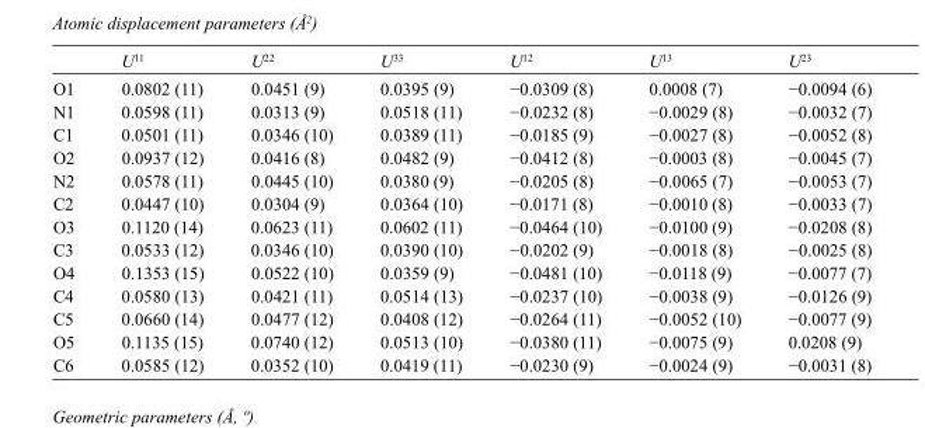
<table><thead><tr><td></td><td>U<sup>11</sup></td><td>U<sup>22</sup></td><td>U<sup>33</sup></td><td>U<sup>12</sup></td><td>U<sup>13</sup></td><td>U<sup>23</sup></td></tr></thead><tbody><tr><td>O1</td><td>0.0802 (11)</td><td>0.0451 (9)</td><td>0.0395 (9)</td><td>−0.0309 (8)</td><td>0.0008 (7)</td><td>−0.0094 (6)</td></tr><tr><td>N1</td><td>0.0598 (11)</td><td>0.0313 (9)</td><td>0.0518 (11)</td><td>−0.0232 (8)</td><td>−0.0029 (8)</td><td>−0.0032 (7)</td></tr><tr><td>C1</td><td>0.0501 (11)</td><td>0.0346 (10)</td><td>0.0389 (11)</td><td>−0.0185 (9)</td><td>−0.0027 (8)</td><td>−0.0052 (8)</td></tr><tr><td>O2</td><td>0.0937 (12)</td><td>0.0416 (8)</td><td>0.0482 (9)</td><td>−0.0412 (8)</td><td>−0.0003 (8)</td><td>−0.0045 (7)</td></tr><tr><td>N2</td><td>0.0578 (11)</td><td>0.0445 (10)</td><td>0.0380 (9)</td><td>−0.0205 (8)</td><td>−0.0065 (7)</td><td>−0.0053 (7)</td></tr><tr><td>C2</td><td>0.0447 (10)</td><td>0.0304 (9)</td><td>0.0364 (10)</td><td>−0.0171 (8)</td><td>−0.0010 (8)</td><td>−0.0033 (7)</td></tr><tr><td>O3</td><td>0.1120 (14)</td><td>0.0623 (11)</td><td>0.0602 (11)</td><td>−0.0464 (10)</td><td>−0.0100 (9)</td><td>−0.0208 (8)</td></tr><tr><td>C3</td><td>0.0533 (12)</td><td>0.0346 (10)</td><td>0.0390 (10)</td><td>−0.0202 (9)</td><td>−0.0018 (8)</td><td>−0.0025 (8)</td></tr><tr><td>O4</td><td>0.1353 (15)</td><td>0.0522 (10)</td><td>0.0359 (9)</td><td>−0.0481 (10)</td><td>−0.0118 (9)</td><td>−0.0077 (7)</td></tr><tr><td>C4</td><td>0.0580 (13)</td><td>0.0421 (11)</td><td>0.0514 (13)</td><td>−0.0237 (10)</td><td>−0.0038 (9)</td><td>−0.0126 (9)</td></tr><tr><td>C5</td><td>0.0660 (14)</td><td>0.0477 (12)</td><td>0.0408 (12)</td><td>−0.0264 (11)</td><td>−0.0052 (10)</td><td>−0.0077 (9)</td></tr><tr><td>O5</td><td>0.1135 (15)</td><td>0.0740 (12)</td><td>0.0513 (10)</td><td>−0.0380 (11)</td><td>−0.0075 (9)</td><td>0.0208 (9)</td></tr><tr><td>C6</td><td>0.0585 (12)</td><td>0.0352 (10)</td><td>0.0419 (11)</td><td>−0.0230 (9)</td><td>−0.0024 (9)</td><td>−0.0031 (8)</td></tr></tbody></table>